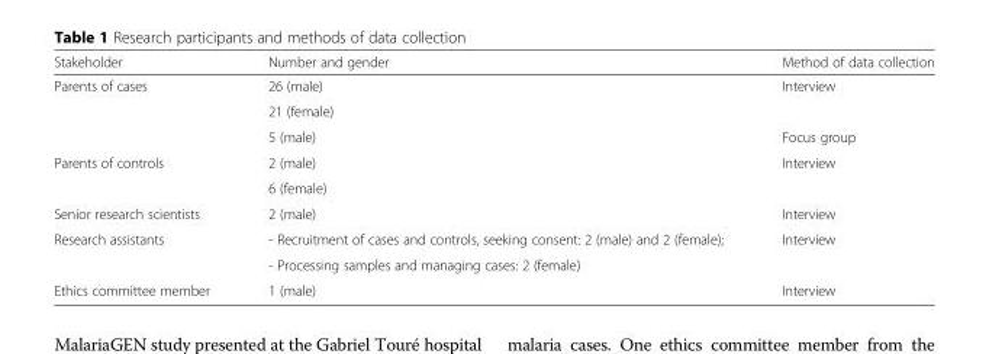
<table><thead><tr><td>Stakeholder</td><td>Number and gender</td><td>Method of data collection</td></tr></thead><tbody><tr><td rowspan="3">Parents of cases</td><td>26 (male)</td><td rowspan="2">Interview</td></tr><tr><td>21 (female)</td></tr><tr><td>5 (male)</td><td>Focus group</td></tr><tr><td rowspan="2">Parents of controls</td><td>2 (male)</td><td rowspan="2">Interview</td></tr><tr><td>6 (female)</td></tr><tr><td>Senior research scientists</td><td>2 (male)</td><td>Interview</td></tr><tr><td rowspan="2">Research assistants</td><td>- Recruitment of cases and controls, seeking consent: 2 (male) and 2 (female);</td><td rowspan="2">Interview</td></tr><tr><td>- Processing samples and managing cases: 2 (female)</td></tr><tr><td>Ethics committee member</td><td>1 (male)</td><td>Interview</td></tr></tbody></table>